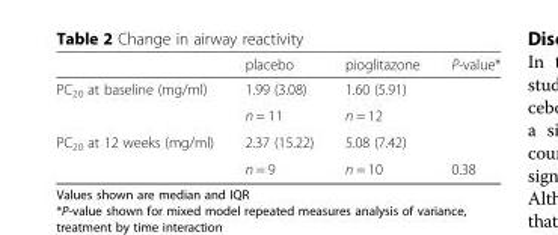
<table><thead><tr><td></td><td>placebo</td><td>pioglitazone</td><td>P-value*</td></tr></thead><tbody><tr><td rowspan="2">PC<sub>20</sub> at baseline (mg/ml)</td><td>1.99 (3.08)</td><td>1.60 (5.91)</td><td></td></tr><tr><td>n = 11</td><td>n = 12</td><td></td></tr><tr><td rowspan="2">PC<sub>20</sub> at 12 weeks (mg/ml)</td><td>2.37 (15.22)</td><td>5.08 (7.42)</td><td></td></tr><tr><td>n = 9</td><td>n = 10</td><td>0.38</td></tr></tbody></table>